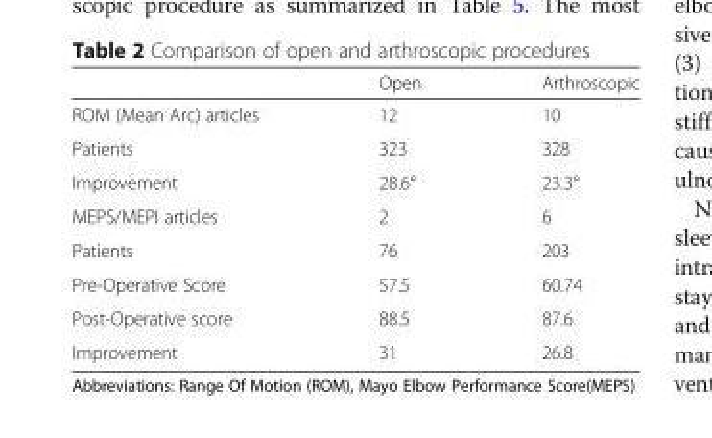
<table><thead><tr><td></td><td>Open</td><td>Arthroscopic</td></tr></thead><tbody><tr><td>ROM (Mean Arc) articles</td><td>12</td><td>10</td></tr><tr><td>Patients</td><td>323</td><td>328</td></tr><tr><td>Improvement</td><td>28.6°</td><td>23.3°</td></tr><tr><td>MEPS/MEPI articles</td><td>2</td><td>6</td></tr><tr><td>Patients</td><td>76</td><td>203</td></tr><tr><td>Pre-Operative Score</td><td>57.5</td><td>60.74</td></tr><tr><td>Post-Operative score</td><td>88.5</td><td>87.6</td></tr><tr><td>Improvement</td><td>31</td><td>26.8</td></tr></tbody></table>